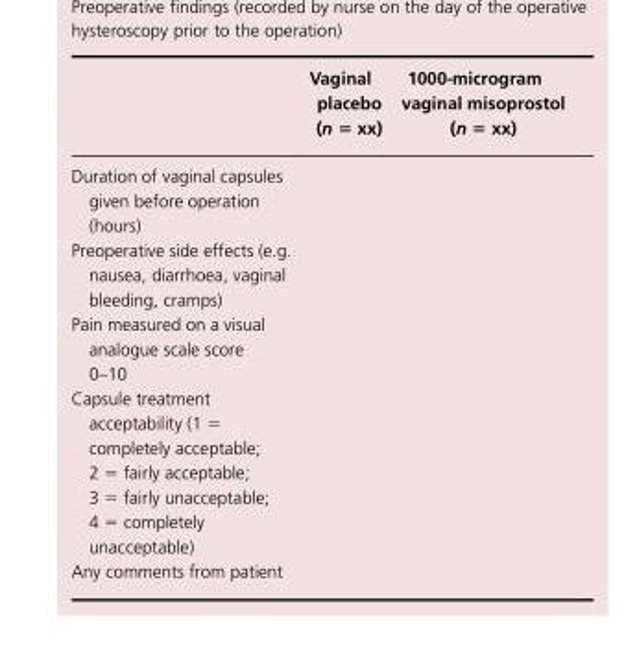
<table><thead><tr><td></td><td>Vaginal placebo (n = xx)</td><td>1000-microgram vaginal misoprostol (n = xx)</td></tr></thead><tbody><tr><td colspan="3">Duration of vaginal capsules given before operation (hours)</td></tr><tr><td colspan="3">Preoperative side effects (e.g. nausea, diarrhoea, vaginal bleeding, cramps)</td></tr><tr><td colspan="3">Pain measured on a visual analogue scale score 0–10</td></tr><tr><td colspan="3">Capsule treatment acceptability (1 = completely acceptable; 2 = fairly acceptable; 3 = fairly unacceptable; 4 = completely unacceptable)</td></tr><tr><td>Any comments from patient</td><td></td><td></td></tr></tbody></table>